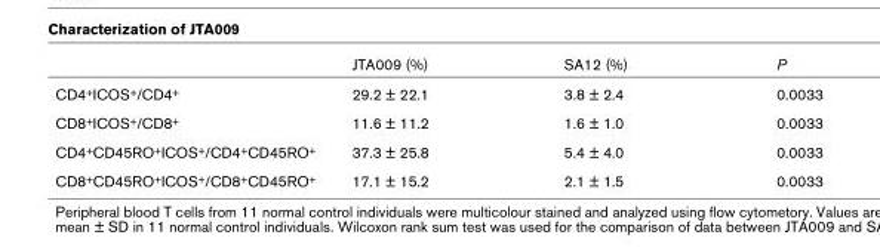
<table><thead><tr><td></td><td>JTA009 (%)</td><td>SA12 (%)</td><td>P</td></tr></thead><tbody><tr><td>CD4+ICOS+/CD4+</td><td>29.2 ± 22.1</td><td>3.8 ± 2.4</td><td>0.0033</td></tr><tr><td>CD8+ICOS+/CD8+</td><td>11.6 ± 11.2</td><td>1.6 ± 1.0</td><td>0.0033</td></tr><tr><td>CD4+CD45RO+ICOS+/CD4+CD45RO+</td><td>37.3 ± 25.8</td><td>5.4 ± 4.0</td><td>0.0033</td></tr><tr><td>CD8+CD45RO+ICOS+/CD8+CD45RO+</td><td>17.1 ± 15.2</td><td>2.1 ± 1.5</td><td>0.0033</td></tr></tbody></table>